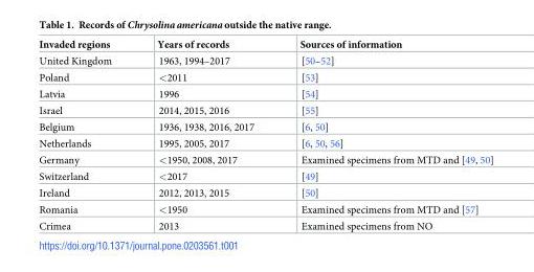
<table><thead><tr><td>Invaded regions</td><td>Years of records</td><td>Sources of information</td></tr></thead><tbody><tr><td>United Kingdom</td><td>1963, 1994–2017</td><td>[50–52]</td></tr><tr><td>Poland</td><td>&lt;2011</td><td>[53]</td></tr><tr><td>Latvia</td><td>1996</td><td>[54]</td></tr><tr><td>Israel</td><td>2014, 2015, 2016</td><td>[55]</td></tr><tr><td>Belgium</td><td>1936, 1938, 2016, 2017</td><td>[6, 50]</td></tr><tr><td>Netherlands</td><td>1995, 2005, 2017</td><td>[6, 50, 56]</td></tr><tr><td>Germany</td><td>&lt;1950, 2008, 2017</td><td>Examined specimens from MTD and [49, 50]</td></tr><tr><td>Switzerland</td><td>&lt;2017</td><td>[49]</td></tr><tr><td>Ireland</td><td>2012, 2013, 2015</td><td>[50]</td></tr><tr><td>Romania</td><td>&lt;1950</td><td>Examined specimens from MTD and [57]</td></tr><tr><td>Crimea</td><td>2013</td><td>Examined specimens from NO</td></tr></tbody></table>